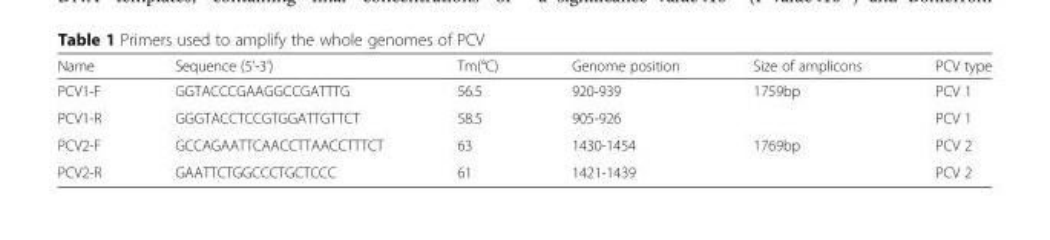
<table><thead><tr><td>Name</td><td>Sequence (5’-3’)</td><td>Tm(°C)</td><td>Genome position</td><td>Size of amplicons</td><td>PCV type</td></tr></thead><tbody><tr><td>PCV1-F</td><td>GGTACCCGAAGGCCGATTTG</td><td>56.5</td><td>920-939</td><td>1759bp</td><td>PCV 1</td></tr><tr><td>PCV1-R</td><td>GGGTACCTCCGTGGATTGTTCT</td><td>58.5</td><td>905-926</td><td></td><td>PCV 1</td></tr><tr><td>PCV2-F</td><td>GCCAGAATTCAACCTTAACCTTTCT</td><td>63</td><td>1430-1454</td><td>1769bp</td><td>PCV 2</td></tr><tr><td>PCV2-R</td><td>GAATTCTGGCCCTGCTCCC</td><td>61</td><td>1421-1439</td><td></td><td>PCV 2</td></tr></tbody></table>